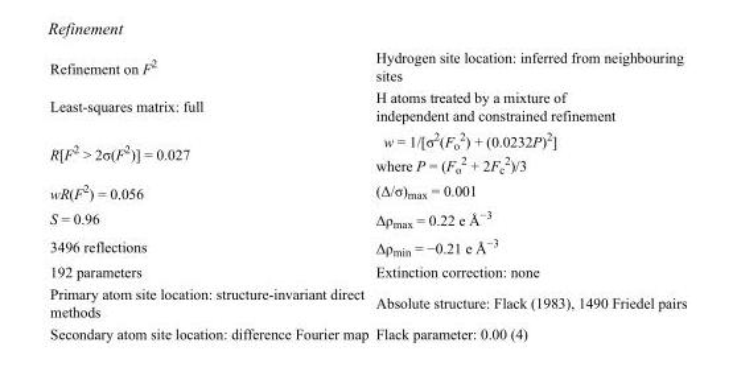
<table><tbody><tr><td>Refinement on F<sup>2</sup></td><td>Hydrogen site location: inferred from neighbouring sites</td></tr><tr><td>Least-squares matrix: full</td><td>H atoms treated by a mixture of independent and constrained refinement</td></tr><tr><td>R[F<sup>2</sup> &gt; 2σ(F<sup>2</sup>)] = 0.027</td><td>w = 1/[σ<sup>2</sup>(F<sub>o</sub> <sup>2</sup>) + (0.0232P)<sup>2</sup>] where P = (F<sub>o</sub> <sup>2</sup> + 2F<sub>c</sub> <sup>2</sup>)/3</td></tr><tr><td>wR(F<sup>2</sup>) = 0.056</td><td>(Δ/σ)<sub>max</sub> = 0.001</td></tr><tr><td>S = 0.96</td><td>Δρ<sub>max</sub> = 0.22 e Å<sup>−3</sup></td></tr><tr><td>3496 reflections</td><td>Δρ<sub>min</sub> = −0.21 e Å<sup>−3</sup></td></tr><tr><td>192 parameters</td><td>Extinction correction: none</td></tr><tr><td>Primary atom site location: structure-invariant direct methods</td><td>Absolute structure: Flack (1983), 1490 Friedel pairs</td></tr><tr><td>Secondary atom site location: difference Fourier map</td><td>Flack parameter: 0.00 (4)</td></tr></tbody></table>